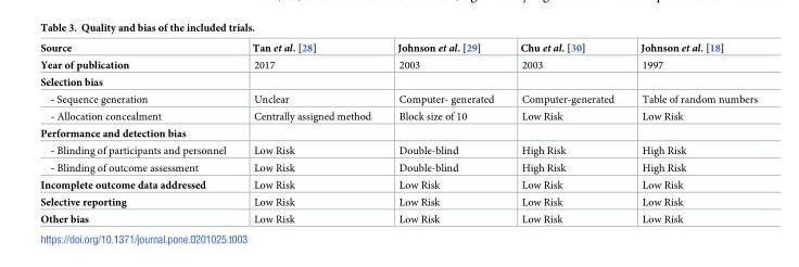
<table><thead><tr><td>Source</td><td>Tan et al. [28]</td><td>Johnson et al. [29]</td><td>Chu et al. [30]</td><td>Johnson et al. [18]</td></tr></thead><tbody><tr><td>Year of publication</td><td>2017</td><td>2003</td><td>2003</td><td>1997</td></tr><tr><td colspan="5">Selection bias</td></tr><tr><td>- Sequence generation</td><td>Unclear</td><td>Computer- generated</td><td>Computer-generated</td><td>Table of random numbers</td></tr><tr><td>- Allocation concealment</td><td>Centrally assigned method</td><td>Block size of 10</td><td>Low Risk</td><td>Low Risk</td></tr><tr><td colspan="5">Performance and detection bias</td></tr><tr><td>- Blinding of participants and personnel</td><td>Low Risk</td><td>Double-blind</td><td>High Risk</td><td>High Risk</td></tr><tr><td>- Blinding of outcome assessment</td><td>Low Risk</td><td>Double-blind</td><td>High Risk</td><td>High Risk</td></tr><tr><td>Incomplete outcome data addressed</td><td>Low Risk</td><td>Low Risk</td><td>Low Risk</td><td>Low Risk</td></tr><tr><td>Selective reporting</td><td>Low Risk</td><td>Low Risk</td><td>Low Risk</td><td>Low Risk</td></tr><tr><td>Other bias</td><td>Low Risk</td><td>Low Risk</td><td>Low Risk</td><td>Low Risk</td></tr></tbody></table>